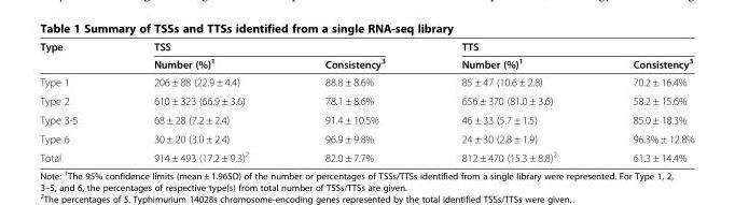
<table><thead><tr><td rowspan="2">Type</td><td colspan="2">TSS</td><td colspan="2">TTS</td></tr><tr><td>Number (%)<sup>1</sup></td><td>Consistency<sup>3</sup></td><td>Number (%)<sup>1</sup></td><td>Consistency<sup>3</sup></td></tr></thead><tbody><tr><td>Type 1</td><td>206 ± 88 (22.9 ± 4.4)</td><td>88.8 ± 8.6%</td><td>85 ± 47 (10.6 ± 2.8)</td><td>70.2 ± 16.4%</td></tr><tr><td>Type 2</td><td>610 ± 323 (66.9 ± 3.6)</td><td>78.1 ± 8.6%</td><td>656 ± 370 (81.0 ± 3.6)</td><td>58.2 ± 15.6%</td></tr><tr><td>Type 3-5</td><td>68 ± 28 (7.2 ± 2.4)</td><td>91.4 ± 10.5%</td><td>46 ± 33 (5.7 ± 1.5)</td><td>85.0 ± 18.3%</td></tr><tr><td>Type 6</td><td>30 ± 20 (3.0 ± 2.4)</td><td>96.9 ± 9.8%</td><td>24 ± 30 (2.8 ± 1.9)</td><td>96.3% ± 12.8%</td></tr><tr><td>Total</td><td>914 ± 493 (17.2 ± 9.3)<sup>2</sup></td><td>82.0 ± 7.7%</td><td>812 ± 470 (15.3 ± 8.8)<sup>2</sup></td><td>61.3 ± 14.4%</td></tr></tbody></table>